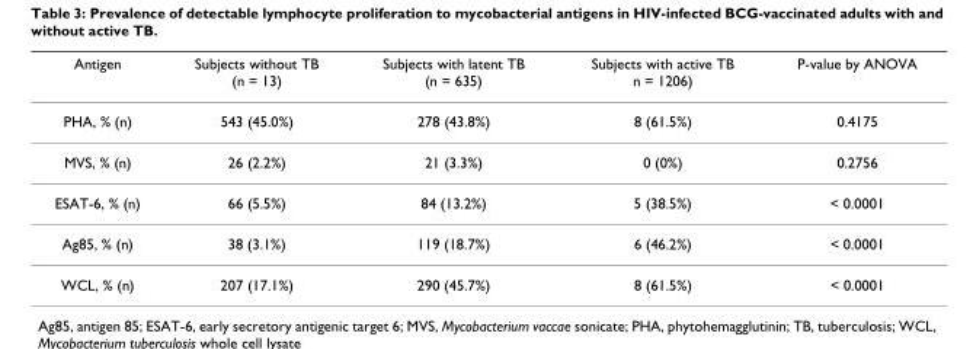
<table><thead><tr><td>Antigen</td><td>Subjects without TB (n = 13)</td><td>Subjects with latent TB (n = 635)</td><td>Subjects with active TB n = 1206)</td><td>P-value by ANOVA</td></tr></thead><tbody><tr><td>PHA, % (n)</td><td>543 (45.0%)</td><td>278 (43.8%)</td><td>8 (61.5%)</td><td>0.4175</td></tr><tr><td>MVS, % (n)</td><td>26 (2.2%)</td><td>21 (3.3%)</td><td>0 (0%)</td><td>0.2756</td></tr><tr><td>ESAT-6, % (n)</td><td>66 (5.5%)</td><td>84 (13.2%)</td><td>5 (38.5%)</td><td>&lt; 0.0001</td></tr><tr><td>Ag85, % (n)</td><td>38 (3.1%)</td><td>119 (18.7%)</td><td>6 (46.2%)</td><td>&lt; 0.0001</td></tr><tr><td>WCL, % (n)</td><td>207 (17.1%)</td><td>290 (45.7%)</td><td>8 (61.5%)</td><td>&lt; 0.0001</td></tr></tbody></table>